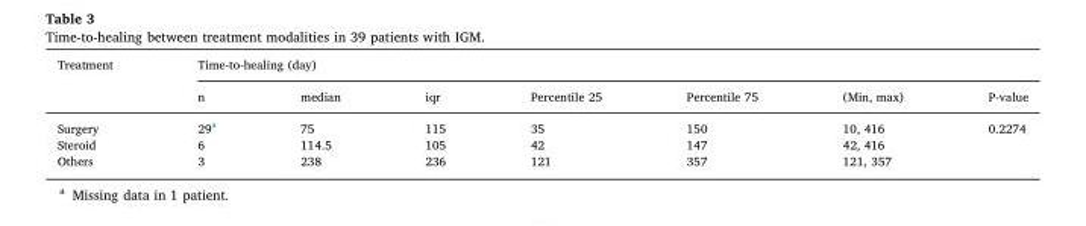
<table><thead><tr><td rowspan="2">Treatment</td><td colspan="7">Time-to-healing (day)</td></tr><tr><td>n</td><td>median</td><td>iqr</td><td>Percentile 25</td><td>Percentile 75</td><td>(Min, max)</td><td>P-value</td></tr></thead><tbody><tr><td>Surgery</td><td>29<sup>a</sup></td><td>75</td><td>115</td><td>35</td><td>150</td><td>10, 416</td><td rowspan="3">0.2274</td></tr><tr><td>Steroid</td><td>6</td><td>114.5</td><td>105</td><td>42</td><td>147</td><td>42, 416</td></tr><tr><td>Others</td><td>3</td><td>238</td><td>236</td><td>121</td><td>357</td><td>121, 357</td></tr></tbody></table>